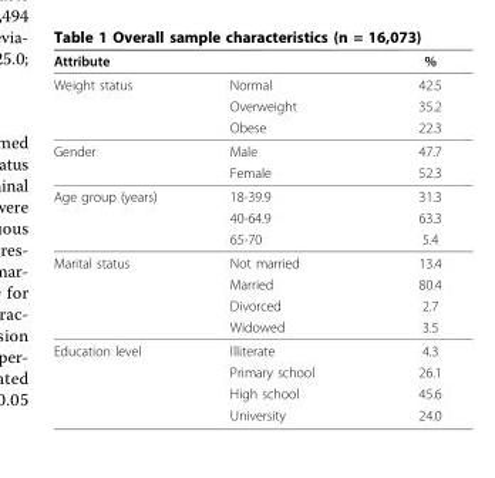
<table><thead><tr><td>Attribute</td><td></td><td>%</td></tr></thead><tbody><tr><td rowspan="3">Weight status</td><td>Normal</td><td>42.5</td></tr><tr><td>Overweight</td><td>35.2</td></tr><tr><td>Obese</td><td>22.3</td></tr><tr><td rowspan="2">Gender</td><td>Male</td><td>47.7</td></tr><tr><td>Female</td><td>52.3</td></tr><tr><td rowspan="3">Age group (years)</td><td>18-39.9</td><td>31.3</td></tr><tr><td>40-64.9</td><td>63.3</td></tr><tr><td>65-70</td><td>5.4</td></tr><tr><td rowspan="4">Marital status</td><td>Not married</td><td>13.4</td></tr><tr><td>Married</td><td>80.4</td></tr><tr><td>Divorced</td><td>2.7</td></tr><tr><td>Widowed</td><td>3.5</td></tr><tr><td rowspan="4">Education level</td><td>Illiterate</td><td>4.3</td></tr><tr><td>Primary school</td><td>26.1</td></tr><tr><td>High school</td><td>45.6</td></tr><tr><td>University</td><td>24.0</td></tr></tbody></table>